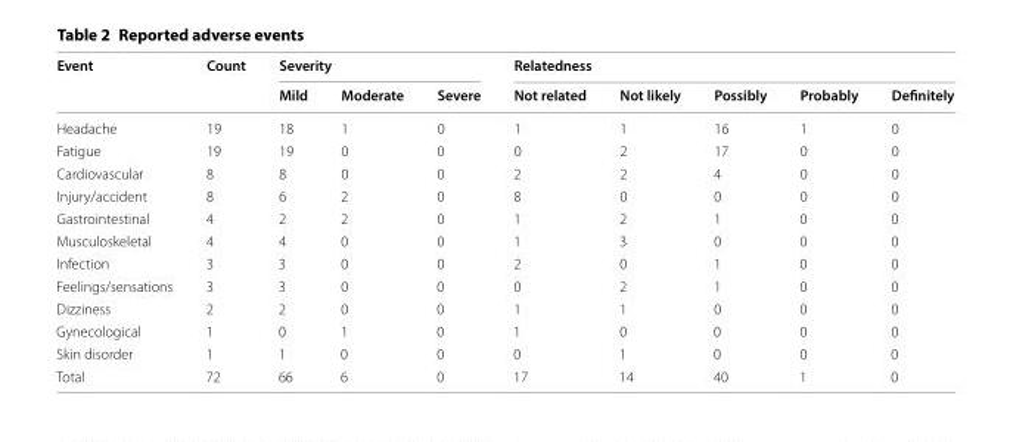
<table><thead><tr><td rowspan="2">Event</td><td rowspan="2">Count</td><td colspan="3">Severity</td><td colspan="5">Relatedness</td></tr><tr><td>Mild</td><td>Moderate</td><td>Severe</td><td>Not related</td><td>Not likely</td><td>Possibly</td><td>Probably</td><td>Definitely</td></tr></thead><tbody><tr><td>Headache</td><td>19</td><td>18</td><td>1</td><td>0</td><td>1</td><td>1</td><td>16</td><td>1</td><td>0</td></tr><tr><td>Fatigue</td><td>19</td><td>19</td><td>0</td><td>0</td><td>0</td><td>2</td><td>17</td><td>0</td><td>0</td></tr><tr><td>Cardiovascular</td><td>8</td><td>8</td><td>0</td><td>0</td><td>2</td><td>2</td><td>4</td><td>0</td><td>0</td></tr><tr><td>Injury/accident</td><td>8</td><td>6</td><td>2</td><td>0</td><td>8</td><td>0</td><td>0</td><td>0</td><td>0</td></tr><tr><td>Gastrointestinal</td><td>4</td><td>2</td><td>2</td><td>0</td><td>1</td><td>2</td><td>1</td><td>0</td><td>0</td></tr><tr><td>Musculoskeletal</td><td>4</td><td>4</td><td>0</td><td>0</td><td>1</td><td>3</td><td>0</td><td>0</td><td>0</td></tr><tr><td>Infection</td><td>3</td><td>3</td><td>0</td><td>0</td><td>2</td><td>0</td><td>1</td><td>0</td><td>0</td></tr><tr><td>Feelings/sensations</td><td>3</td><td>3</td><td>0</td><td>0</td><td>0</td><td>2</td><td>1</td><td>0</td><td>0</td></tr><tr><td>Dizziness</td><td>2</td><td>2</td><td>0</td><td>0</td><td>1</td><td>1</td><td>0</td><td>0</td><td>0</td></tr><tr><td>Gynecological</td><td>1</td><td>0</td><td>1</td><td>0</td><td>1</td><td>0</td><td>0</td><td>0</td><td>0</td></tr><tr><td>Skin disorder</td><td>1</td><td>1</td><td>0</td><td>0</td><td>0</td><td>1</td><td>0</td><td>0</td><td>0</td></tr><tr><td>Total</td><td>72</td><td>66</td><td>6</td><td>0</td><td>17</td><td>14</td><td>40</td><td>1</td><td>0</td></tr></tbody></table>